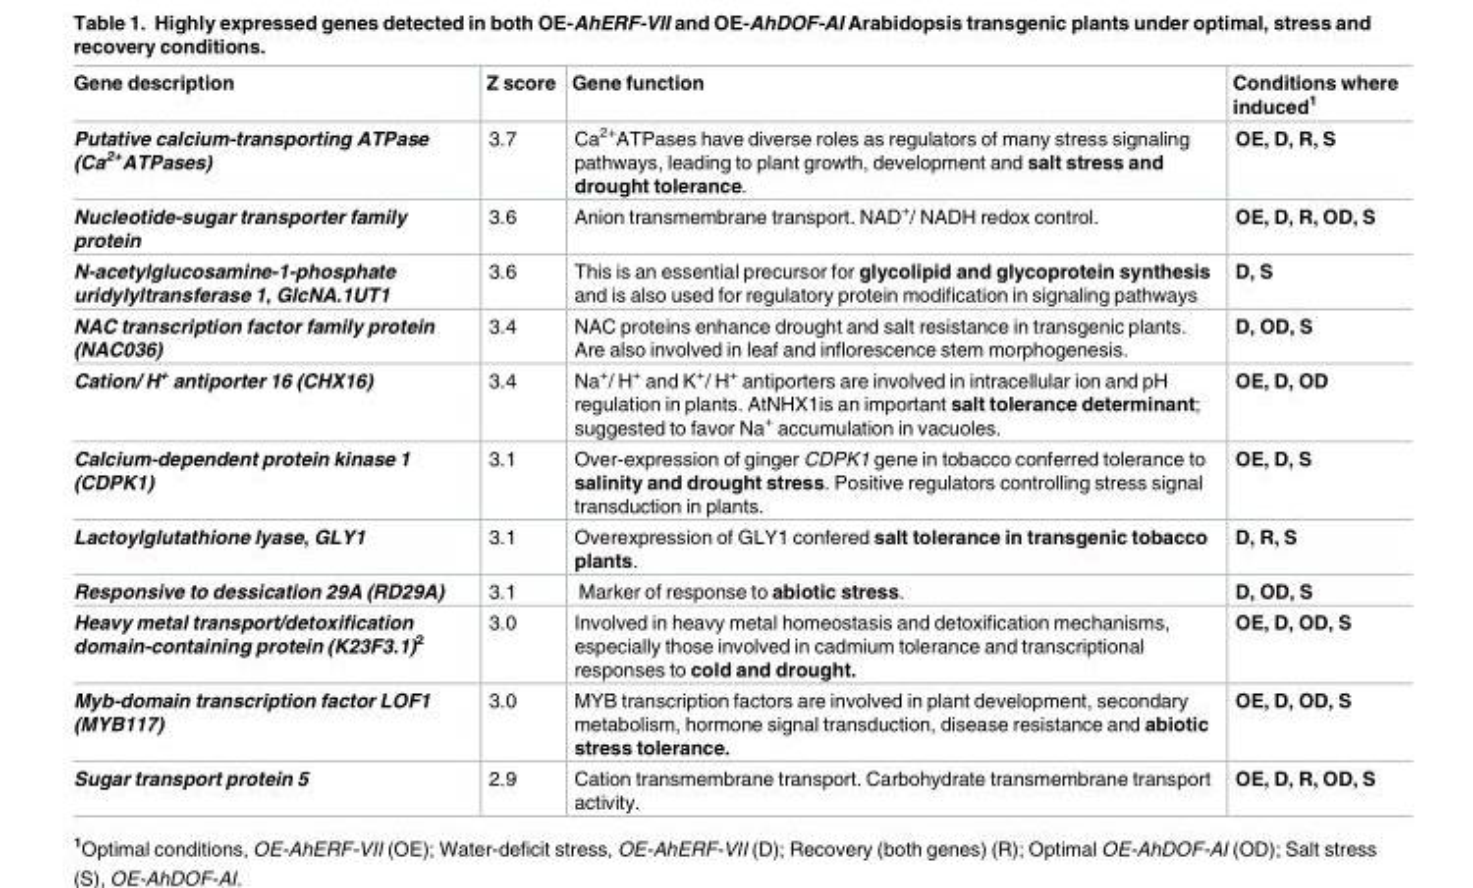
<table><thead><tr><td>Gene description</td><td>Z score</td><td>Gene function</td><td>Conditions where induced<sup>1</sup></td></tr></thead><tbody><tr><td>Putative calcium-transporting ATPase (Ca<sup>2+</sup>ATPases)</td><td>3.7</td><td>Ca<sup>2+</sup>ATPases have diverse roles as regulators of many stress signaling pathways, leading to plant growth, development and salt stress and drought tolerance.</td><td>OE, D, R, S</td></tr><tr><td>Nucleotide-sugar transporter family protein</td><td>3.6</td><td>Anion transmembrane transport. NAD<sup>+</sup>/ NADH redox control.</td><td>OE, D, R, OD, S</td></tr><tr><td>N-acetylglucosamine-1-phosphate uridylyltransferase 1, GlcNA.1UT1</td><td>3.6</td><td>This is an essential precursor for glycolipid and glycoprotein synthesis and is also used for regulatory protein modification in signaling pathways</td><td>D, S</td></tr><tr><td>NAC transcription factor family protein (NAC036)</td><td>3.4</td><td>NAC proteins enhance drought and salt resistance in transgenic plants. Are also involved in leaf and inflorescence stem morphogenesis.</td><td>D, OD, S</td></tr><tr><td>Cation/ H<sup>+</sup> antiporter 16 (CHX16)</td><td>3.4</td><td>Na<sup>+</sup>/ H<sup>+</sup> and K<sup>+</sup>/ H<sup>+</sup> antiporters are involved in intracellular ion and pH regulation in plants. AtNHX1is an important salt tolerance determinant; suggested to favor Na<sup>+</sup> accumulation in vacuoles.</td><td>OE, D, OD</td></tr><tr><td>Calcium-dependent protein kinase 1 (CDPK1)</td><td>3.1</td><td>Over-expression of ginger CDPK1 gene in tobacco conferred tolerance to salinity and drought stress. Positive regulators controlling stress signal transduction in plants.</td><td>OE, D, S</td></tr><tr><td>Lactoylglutathione lyase, GLY1</td><td>3.1</td><td>Overexpression of GLY1 confered salt tolerance in transgenic tobacco plants.</td><td>D, R, S</td></tr><tr><td>Responsive to dessication 29A (RD29A)</td><td>3.1</td><td>Marker of response to abiotic stress.</td><td>D, OD, S</td></tr><tr><td>Heavy metal transport/detoxification domain-containing protein (K23F3.1)<sup>2</sup></td><td>3.0</td><td>Involved in heavy metal homeostasis and detoxification mechanisms, especially those involved in cadmium tolerance and transcriptional responses to cold and drought.</td><td>OE, D, OD, S</td></tr><tr><td>Myb-domain transcription factor LOF1 (MYB117)</td><td>3.0</td><td>MYB transcription factors are involved in plant development, secondary metabolism, hormone signal transduction, disease resistance and abiotic stress tolerance.</td><td>OE, D, OD, S</td></tr><tr><td>Sugar transport protein 5</td><td>2.9</td><td>Cation transmembrane transport. Carbohydrate transmembrane transport activity.</td><td>OE, D, R, OD, S</td></tr></tbody></table>